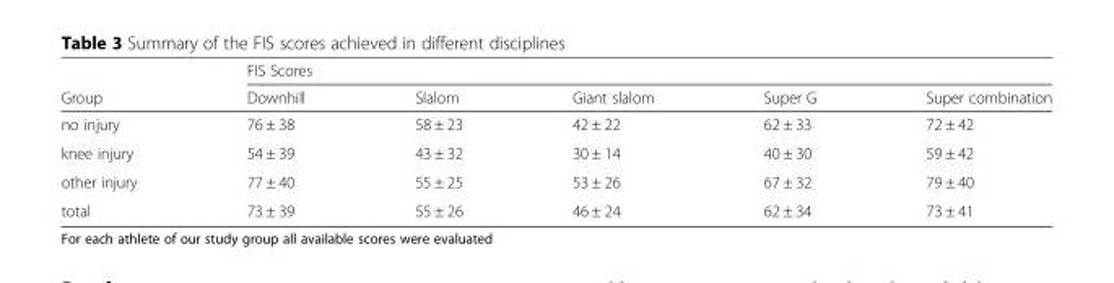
<table><thead><tr><td rowspan="2">Group</td><td colspan="5">FIS Scores</td></tr><tr><td>Downhill</td><td>Slalom</td><td>Giant slalom</td><td>Super G</td><td>Super combination</td></tr></thead><tbody><tr><td>no injury</td><td>76 ± 38</td><td>58 ± 23</td><td>42 ± 22</td><td>62 ± 33</td><td>72 ± 42</td></tr><tr><td>knee injury</td><td>54 ± 39</td><td>43 ± 32</td><td>30 ± 14</td><td>40 ± 30</td><td>59 ± 42</td></tr><tr><td>other injury</td><td>77 ± 40</td><td>55 ± 25</td><td>53 ± 26</td><td>67 ± 32</td><td>79 ± 40</td></tr><tr><td>total</td><td>73 ± 39</td><td>55 ± 26</td><td>46 ± 24</td><td>62 ± 34</td><td>73 ± 41</td></tr></tbody></table>